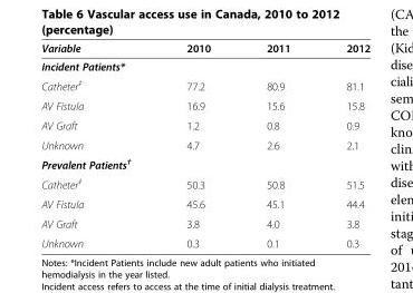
<table><thead><tr><td>Variable</td><td>2010</td><td>2011</td><td>2012</td></tr></thead><tbody><tr><td colspan="4">Incident Patients*</td></tr><tr><td>Catheter<sup>‡</sup></td><td>77.2</td><td>80.9</td><td>81.1</td></tr><tr><td>AV Fistula</td><td>16.9</td><td>15.6</td><td>15.8</td></tr><tr><td>AV Graft</td><td>1.2</td><td>0.8</td><td>0.9</td></tr><tr><td>Unknown</td><td>4.7</td><td>2.6</td><td>2.1</td></tr><tr><td colspan="4">Prevalent Patients<sup>†</sup></td></tr><tr><td>Catheter<sup>‡</sup></td><td>50.3</td><td>50.8</td><td>51.5</td></tr><tr><td>AV Fistula</td><td>45.6</td><td>45.1</td><td>44.4</td></tr><tr><td>AV Graft</td><td>3.8</td><td>4.0</td><td>3.8</td></tr><tr><td>Unknown</td><td>0.3</td><td>0.1</td><td>0.3</td></tr></tbody></table>